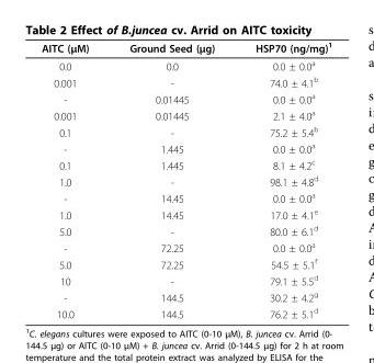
<table><thead><tr><td>AITC (μM)</td><td>Ground Seed (μg)</td><td>HSP70 (ng/mg)<sup>1</sup></td></tr></thead><tbody><tr><td>0.0</td><td>0.0</td><td>0.0 ± 0.0<sup>a</sup></td></tr><tr><td>0.001</td><td>-</td><td>74.0 ± 4.1<sup>b</sup></td></tr><tr><td>-</td><td>0.01445</td><td>0.0 ± 0.0<sup>a</sup></td></tr><tr><td>0.001</td><td>0.01445</td><td>2.1 ± 4.0<sup>a</sup></td></tr><tr><td>0.1</td><td>-</td><td>75.2 ± 5.4<sup>b</sup></td></tr><tr><td>-</td><td>1.445</td><td>0.0 ± 0.0<sup>a</sup></td></tr><tr><td>0.1</td><td>1.445</td><td>8.1 ± 4.2<sup>c</sup></td></tr><tr><td>1.0</td><td>-</td><td>98.1 ± 4.8<sup>d</sup></td></tr><tr><td>-</td><td>14.45</td><td>0.0 ± 0.0<sup>a</sup></td></tr><tr><td>1.0</td><td>14.45</td><td>17.0 ± 4.1<sup>e</sup></td></tr><tr><td>5.0</td><td>-</td><td>80.0 ± 6.1<sup>d</sup></td></tr><tr><td>-</td><td>72.25</td><td>0.0 ± 0.0<sup>a</sup></td></tr><tr><td>5.0</td><td>72.25</td><td>54.5 ± 5.1<sup>f</sup></td></tr><tr><td>10</td><td>-</td><td>79.1 ± 5.5<sup>d</sup></td></tr><tr><td>-</td><td>144.5</td><td>30.2 ± 4.2<sup>g</sup></td></tr><tr><td>10.0</td><td>144.5</td><td>76.2 ± 5.1<sup>d</sup></td></tr></tbody></table>